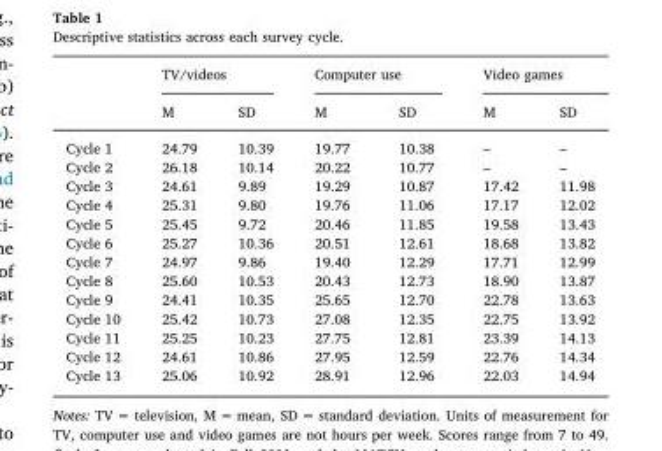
<table><thead><tr><td rowspan="2"></td><td colspan="2">TV/videos</td><td colspan="2">Computer use</td><td colspan="2">Video games</td></tr><tr><td>M</td><td>SD</td><td>M</td><td>SD</td><td>M</td><td>SD</td></tr></thead><tbody><tr><td>Cycle 1</td><td>24.79</td><td>10.39</td><td>19.77</td><td>10.38</td><td>–</td><td>–</td></tr><tr><td>Cycle 2</td><td>26.18</td><td>10.14</td><td>20.22</td><td>10.77</td><td>–</td><td>–</td></tr><tr><td>Cycle 3</td><td>24.61</td><td>9.89</td><td>19.29</td><td>10.87</td><td>17.42</td><td>11.98</td></tr><tr><td>Cycle 4</td><td>25.31</td><td>9.80</td><td>19.76</td><td>11.06</td><td>17.17</td><td>12.02</td></tr><tr><td>Cycle 5</td><td>25.45</td><td>9.72</td><td>20.46</td><td>11.85</td><td>19.58</td><td>13.43</td></tr><tr><td>Cycle 6</td><td>25.27</td><td>10.36</td><td>20.51</td><td>12.61</td><td>18.68</td><td>13.82</td></tr><tr><td>Cycle 7</td><td>24.97</td><td>9.86</td><td>19.40</td><td>12.29</td><td>17.71</td><td>12.99</td></tr><tr><td>Cycle 8</td><td>25.60</td><td>10.53</td><td>20.43</td><td>12.73</td><td>18.90</td><td>13.87</td></tr><tr><td>Cycle 9</td><td>24.41</td><td>10.35</td><td>25.65</td><td>12.70</td><td>22.78</td><td>13.63</td></tr><tr><td>Cycle 10</td><td>25.42</td><td>10.73</td><td>27.08</td><td>12.35</td><td>22.75</td><td>13.92</td></tr><tr><td>Cycle 11</td><td>25.25</td><td>10.23</td><td>27.75</td><td>12.81</td><td>23.39</td><td>14.13</td></tr><tr><td>Cycle 12</td><td>24.61</td><td>10.86</td><td>27.95</td><td>12.59</td><td>22.76</td><td>14.34</td></tr><tr><td>Cycle 13</td><td>25.06</td><td>10.92</td><td>28.91</td><td>12.96</td><td>22.03</td><td>14.94</td></tr></tbody></table>